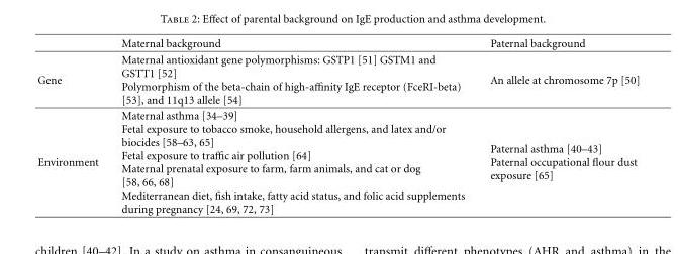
<table><thead><tr><td></td><td>Maternal background</td><td>Paternal background</td></tr></thead><tbody><tr><td>Gene</td><td>Maternal antioxidant gene polymorphisms: GSTP1 [51] GSTM1 and GSTT1 [52] Polymorphism of the beta-chain of high-affinity IgE receptor (FceRI-beta) [53], and 11q13 allele [54]</td><td>An allele at chromosome 7p [50]</td></tr><tr><td>Environment</td><td>Maternal asthma [34–39] Fetal exposure to tobacco smoke, household allergens, and latex and/or biocides [58–63, 65] Fetal exposure to traffic air pollution [64] Maternal prenatal exposure to farm, farm animals, and cat or dog [58, 66, 68] Mediterranean diet, fish intake, fatty acid status, and folic acid supplements during pregnancy [24, 69, 72, 73]</td><td>Paternal asthma [40–43] Paternal occupational flour dust exposure [65]</td></tr></tbody></table>